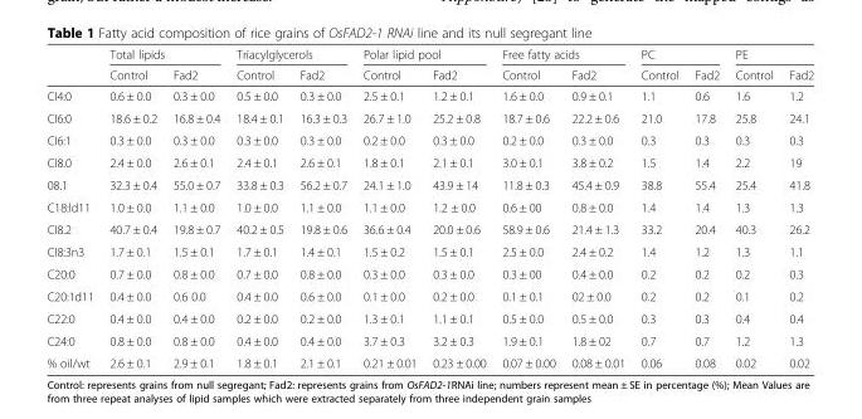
<table><thead><tr><td rowspan="2"></td><td colspan="2">Total lipids</td><td colspan="2">Triacylglycerols</td><td colspan="2">Polar lipid pool</td><td colspan="2">Free fatty acids</td><td colspan="2">PC</td><td colspan="2">PE</td></tr><tr><td>Control</td><td>Fad2</td><td>Control</td><td>Fad2</td><td>Control</td><td>Fad2</td><td>Control</td><td>Fad2</td><td>Control</td><td>Fad2</td><td>Control</td><td>Fad2</td></tr></thead><tbody><tr><td>CI4:0</td><td>0.6 ± 0.0</td><td>0.3 ± 0.0</td><td>0.5 ± 0.0</td><td>0.3 ± 0.0</td><td>2.5 ± 0.1</td><td>1.2 ± 0.1</td><td>1.6 ± 0.0</td><td>0.9 ± 0.1</td><td>1.1</td><td>0.6</td><td>1.6</td><td>1.2</td></tr><tr><td>CI6:0</td><td>18.6 ± 0.2</td><td>16.8 ± 0.4</td><td>18.4 ± 0.1</td><td>16.3 ± 0.3</td><td>26.7 ± 1.0</td><td>25.2 ± 0.8</td><td>18.7 ± 0.6</td><td>22.2 ± 0.6</td><td>21.0</td><td>17.8</td><td>25.8</td><td>24.1</td></tr><tr><td>CI6:1</td><td>0.3 ± 0.0</td><td>0.3 ± 0.0</td><td>0.3 ± 0.0</td><td>0.3 ± 0.0</td><td>0.2 ± 0.0</td><td>0.3 ± 0.0</td><td>0.2 ± 0.0</td><td>0.3 ± 0.0</td><td>0.3</td><td>0.3</td><td>0.3</td><td>0.3</td></tr><tr><td>CI8.0</td><td>2.4 ± 0.0</td><td>2.6 ± 0.1</td><td>2.4 ± 0.1</td><td>2.6 ± 0.1</td><td>1.8 ± 0.1</td><td>2.1 ± 0.1</td><td>3.0 ± 0.1</td><td>3.8 ± 0.2</td><td>1.5</td><td>1.4</td><td>2.2</td><td>19</td></tr><tr><td>08.1</td><td>32.3 ± 0.4</td><td>55.0 ± 0.7</td><td>33.8 ± 0.3</td><td>56.2 ± 0.7</td><td>24.1 ± 1.0</td><td>43.9 ± 14</td><td>11.8 ± 0.3</td><td>45.4 ± 0.9</td><td>38.8</td><td>55.4</td><td>25.4</td><td>41.8</td></tr><tr><td>C18:ld11</td><td>1.0 ± 0.0</td><td>1.1 ± 0.0</td><td>1.0 ± 0.0</td><td>1.1 ± 0.0</td><td>1.1 ± 0.0</td><td>1.2 ± 0.0</td><td>0.6 ± 00</td><td>0.8 ± 0.0</td><td>1.4</td><td>1.4</td><td>1.3</td><td>1.3</td></tr><tr><td>CI8.2</td><td>40.7 ± 0.4</td><td>19.8 ± 0.7</td><td>40.2 ± 0.5</td><td>19.8 ± 0.6</td><td>36.6 ± 0.4</td><td>20.0 ± 0.6</td><td>58.9 ± 0.6</td><td>21.4 ± 1.3</td><td>33.2</td><td>20.4</td><td>40.3</td><td>26.2</td></tr><tr><td>CI8:3n3</td><td>1.7 ± 0.1</td><td>1.5 ± 0.1</td><td>1.7 ± 0.1</td><td>1.4 ± 0.1</td><td>1.5 ± 0.2</td><td>1.5 ± 0.1</td><td>2.5 ± 0.0</td><td>2.4 ± 0.2</td><td>1.4</td><td>1.2</td><td>1.3</td><td>1.1</td></tr><tr><td>C20:0</td><td>0.7 ± 0.0</td><td>0.8 ± 0.0</td><td>0.7 ± 0.0</td><td>0.8 ± 0.0</td><td>0.3 ± 0.0</td><td>0.3 ± 0.0</td><td>0.3 ± 00</td><td>0.4 ± 0.0</td><td>0.2</td><td>0.2</td><td>0.2</td><td>0.3</td></tr><tr><td>C20:1d11</td><td>0.4 ± 0.0</td><td>0.6 0.0</td><td>0.4 ± 0.0</td><td>0.6 ± 0.0</td><td>0.1 ± 0.0</td><td>0.2 ± 0.0</td><td>0.1 ± 0.1</td><td>02 ± 0.0</td><td>0.2</td><td>0.2</td><td>0.1</td><td>0.2</td></tr><tr><td>C22:0</td><td>0.4 ± 0.0</td><td>0.4 ± 0.0</td><td>0.2 ± 0.0</td><td>0.2 ± 0.0</td><td>1.3 ± 0.1</td><td>1.1 ± 0.1</td><td>0.5 ± 0.0</td><td>0.5 ± 0.0</td><td>0.3</td><td>0.3</td><td>0.4</td><td>0.4</td></tr><tr><td>C24:0</td><td>0.8 ± 0.0</td><td>0.8 ± 0.0</td><td>0.4 ± 0.0</td><td>0.4 ± 0.0</td><td>3.7 ± 0.3</td><td>3.2 ± 0.3</td><td>1.9 ± 0.1</td><td>1.8 ± 02</td><td>0.7</td><td>0.7</td><td>1.2</td><td>1.3</td></tr><tr><td>% oil/wt</td><td>2.6 ± 0.1</td><td>2.9 ± 0.1</td><td>1.8 ± 0.1</td><td>2.1 ± 0.1</td><td>0.21 ± 0.01</td><td>0.23 ± 0.00</td><td>0.07 ± 0.00</td><td>0.08 ± 0.01</td><td>0.06</td><td>0.08</td><td>0.02</td><td>0.02</td></tr></tbody></table>